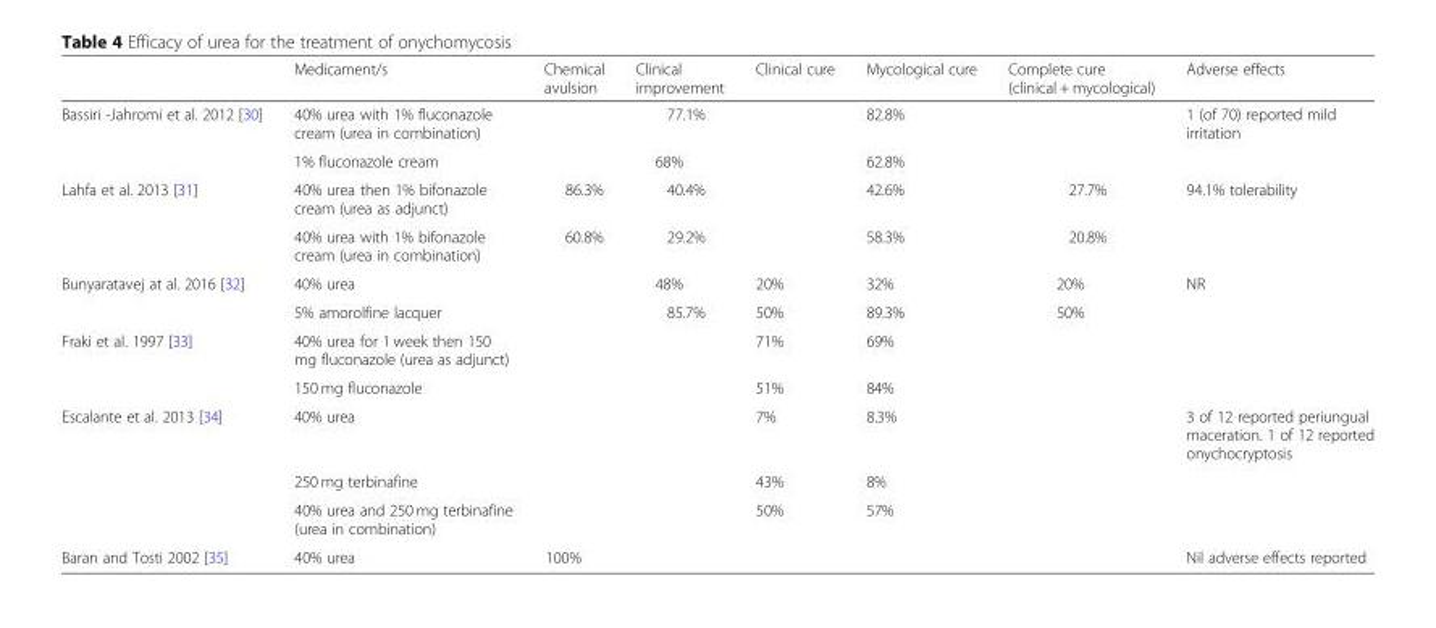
<table><thead><tr><td></td><td>Medicament/s</td><td>Chemical avulsion</td><td>Clinical improvement</td><td>Clinical cure</td><td>Mycological cure</td><td>Complete cure (clinical + mycological)</td><td>Adverse effects</td></tr></thead><tbody><tr><td rowspan="2">Bassiri -Jahromi et al. 2012 [30]</td><td>40% urea with 1% fluconazole cream (urea in combination)</td><td></td><td>77.1%</td><td></td><td>82.8%</td><td></td><td>1 (of 70) reported mild irritation</td></tr><tr><td>1% fluconazole cream</td><td></td><td>68%</td><td></td><td>62.8%</td><td></td><td></td></tr><tr><td rowspan="2">Lahfa et al. 2013 [31]</td><td>40% urea then 1% bifonazole cream (urea as adjunct)</td><td>86.3%</td><td>40.4%</td><td></td><td>42.6%</td><td>27.7%</td><td>94.1% tolerability</td></tr><tr><td>40% urea with 1% bifonazole cream (urea in combination)</td><td>60.8%</td><td>29.2%</td><td></td><td>58.3%</td><td>20.8%</td><td></td></tr><tr><td rowspan="2">Bunyaratavej at al. 2016 [32]</td><td>40% urea</td><td></td><td>48%</td><td>20%</td><td>32%</td><td>20%</td><td>NR</td></tr><tr><td>5% amorolfine lacquer</td><td></td><td>85.7%</td><td>50%</td><td>89.3%</td><td>50%</td><td></td></tr><tr><td rowspan="2">Fraki et al. 1997 [33]</td><td>40% urea for 1 week then 150 mg fluconazole (urea as adjunct)</td><td></td><td></td><td>71%</td><td>69%</td><td></td><td></td></tr><tr><td>150 mg fluconazole</td><td></td><td></td><td>51%</td><td>84%</td><td></td><td></td></tr><tr><td rowspan="3">Escalante et al. 2013 [34]</td><td>40% urea</td><td></td><td></td><td>7%</td><td>8.3%</td><td></td><td>3 of 12 reported periungual maceration. 1 of 12 reported onychocryptosis</td></tr><tr><td>250 mg terbinafine</td><td></td><td></td><td>43%</td><td>8%</td><td></td><td></td></tr><tr><td>40% urea and 250 mg terbinafine (urea in combination)</td><td></td><td></td><td>50%</td><td>57%</td><td></td><td></td></tr><tr><td>Baran and Tosti 2002 [35]</td><td>40% urea</td><td>100%</td><td></td><td></td><td></td><td></td><td>Nil adverse effects reported</td></tr></tbody></table>